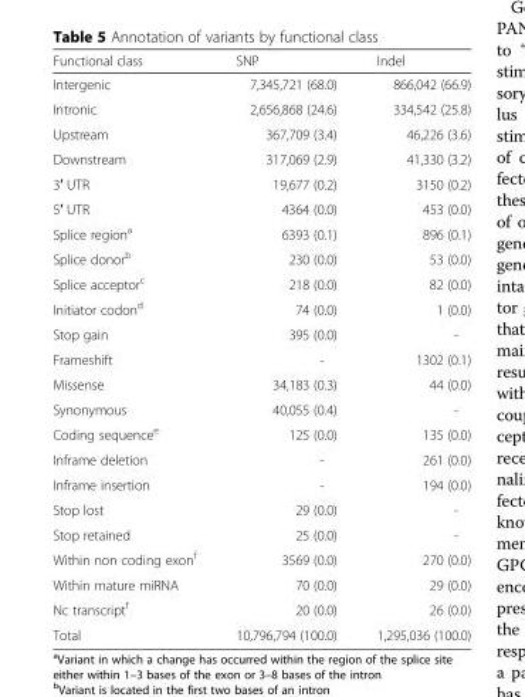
<table><thead><tr><td>Functional class</td><td>SNP</td><td>Indel</td></tr></thead><tbody><tr><td>Intergenic</td><td>7,345,721 (68.0)</td><td>866,042 (66.9)</td></tr><tr><td>Intronic</td><td>2,656,868 (24.6)</td><td>334,542 (25.8)</td></tr><tr><td>Upstream</td><td>367,709 (3.4)</td><td>46,226 (3.6)</td></tr><tr><td>Downstream</td><td>317,069 (2.9)</td><td>41,330 (3.2)</td></tr><tr><td>3′ UTR</td><td>19,677 (0.2)</td><td>3150 (0.2)</td></tr><tr><td>5′ UTR</td><td>4364 (0.0)</td><td>453 (0.0)</td></tr><tr><td>Splice region<sup>a</sup></td><td>6393 (0.1)</td><td>896 (0.1)</td></tr><tr><td>Splice donor<sup>b</sup></td><td>230 (0.0)</td><td>53 (0.0)</td></tr><tr><td>Splice acceptor<sup>c</sup></td><td>218 (0.0)</td><td>82 (0.0)</td></tr><tr><td>Initiator codon<sup>d</sup></td><td>74 (0.0)</td><td>1 (0.0)</td></tr><tr><td>Stop gain</td><td>395 (0.0)</td><td>-</td></tr><tr><td>Frameshift</td><td>-</td><td>1302 (0.1)</td></tr><tr><td>Missense</td><td>34,183 (0.3)</td><td>44 (0.0)</td></tr><tr><td>Synonymous</td><td>40,055 (0.4)</td><td>-</td></tr><tr><td>Coding sequence<sup>e</sup></td><td>125 (0.0)</td><td>135 (0.0)</td></tr><tr><td>Inframe deletion</td><td>-</td><td>261 (0.0)</td></tr><tr><td>Inframe insertion</td><td>-</td><td>194 (0.0)</td></tr><tr><td>Stop lost</td><td>29 (0.0)</td><td>-</td></tr><tr><td>Stop retained</td><td>25 (0.0)</td><td>-</td></tr><tr><td>Within non coding exon<sup>f</sup></td><td>3569 (0.0)</td><td>270 (0.0)</td></tr><tr><td>Within mature miRNA</td><td>70 (0.0)</td><td>29 (0.0)</td></tr><tr><td>Nc transcript<sup>f</sup></td><td>20 (0.0)</td><td>26 (0.0)</td></tr><tr><td>Total</td><td>10,796,794 (100.0)</td><td>1,295,036 (100.0)</td></tr></tbody></table>